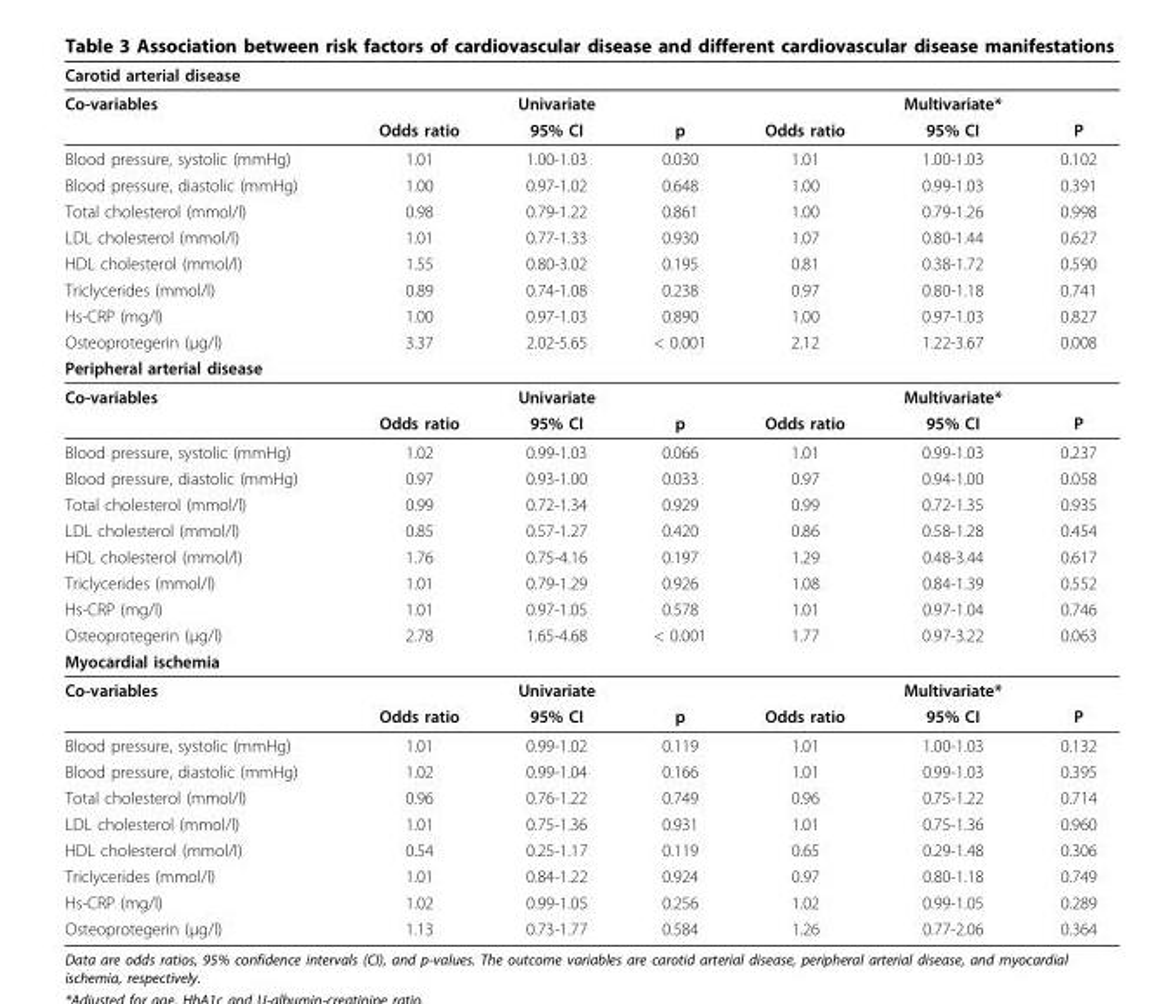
<table><thead><tr><td>Carotid arterial disease</td><td></td><td></td><td></td><td></td><td></td><td></td></tr></thead><tbody><tr><td rowspan="2">Co-variables</td><td></td><td>Univariate</td><td></td><td></td><td>Multivariate*</td><td></td></tr><tr><td>Odds ratio</td><td>95% CI</td><td>p</td><td>Odds ratio</td><td>95% CI</td><td>P</td></tr><tr><td>Blood pressure, systolic (mmHg)</td><td>1.01</td><td>1.00-1.03</td><td>0.030</td><td>1.01</td><td>1.00-1.03</td><td>0.102</td></tr><tr><td>Blood pressure, diastolic (mmHg)</td><td>1.00</td><td>0.97-1.02</td><td>0.648</td><td>1.00</td><td>0.99-1.03</td><td>0.391</td></tr><tr><td>Total cholesterol (mmol/l)</td><td>0.98</td><td>0.79-1.22</td><td>0.861</td><td>1.00</td><td>0.79-1.26</td><td>0.998</td></tr><tr><td>LDL cholesterol (mmol/l)</td><td>1.01</td><td>0.77-1.33</td><td>0.930</td><td>1.07</td><td>0.80-1.44</td><td>0.627</td></tr><tr><td>HDL cholesterol (mmol/l)</td><td>1.55</td><td>0.80-3.02</td><td>0.195</td><td>0.81</td><td>0.38-1.72</td><td>0.590</td></tr><tr><td>Triclycerides (mmol/l)</td><td>0.89</td><td>0.74-1.08</td><td>0.238</td><td>0.97</td><td>0.80-1.18</td><td>0.741</td></tr><tr><td>Hs-CRP (mg/l)</td><td>1.00</td><td>0.97-1.03</td><td>0.890</td><td>1.00</td><td>0.97-1.03</td><td>0.827</td></tr><tr><td>Osteoprotegerin (μg/l)</td><td>3.37</td><td>2.02-5.65</td><td>&lt; 0.001</td><td>2.12</td><td>1.22-3.67</td><td>0.008</td></tr><tr><td colspan="7">Peripheral arterial disease</td></tr><tr><td rowspan="2">Co-variables</td><td></td><td>Univariate</td><td></td><td></td><td>Multivariate*</td><td></td></tr><tr><td>Odds ratio</td><td>95% CI</td><td>p</td><td>Odds ratio</td><td>95% CI</td><td>P</td></tr><tr><td>Blood pressure, systolic (mmHg)</td><td>1.02</td><td>0.99-1.03</td><td>0.066</td><td>1.01</td><td>0.99-1.03</td><td>0.237</td></tr><tr><td>Blood pressure, diastolic (mmHg)</td><td>0.97</td><td>0.93-1.00</td><td>0.033</td><td>0.97</td><td>0.94-1.00</td><td>0.058</td></tr><tr><td>Total cholesterol (mmol/l)</td><td>0.99</td><td>0.72-1.34</td><td>0.929</td><td>0.99</td><td>0.72-1.35</td><td>0.935</td></tr><tr><td>LDL cholesterol (mmol/l)</td><td>0.85</td><td>0.57-1.27</td><td>0.420</td><td>0.86</td><td>0.58-1.28</td><td>0.454</td></tr><tr><td>HDL cholesterol (mmol/l)</td><td>1.76</td><td>0.75-4.16</td><td>0.197</td><td>1.29</td><td>0.48-3.44</td><td>0.617</td></tr><tr><td>Triclycerides (mmol/l)</td><td>1.01</td><td>0.79-1.29</td><td>0.926</td><td>1.08</td><td>0.84-1.39</td><td>0.552</td></tr><tr><td>Hs-CRP (mg/l)</td><td>1.01</td><td>0.97-1.05</td><td>0.578</td><td>1.01</td><td>0.97-1.04</td><td>0.746</td></tr><tr><td>Osteoprotegerin (μg/l)</td><td>2.78</td><td>1.65-4.68</td><td>&lt; 0.001</td><td>1.77</td><td>0.97-3.22</td><td>0.063</td></tr><tr><td colspan="7">Myocardial ischemia</td></tr><tr><td rowspan="2">Co-variables</td><td></td><td>Univariate</td><td></td><td></td><td>Multivariate*</td><td></td></tr><tr><td>Odds ratio</td><td>95% CI</td><td>p</td><td>Odds ratio</td><td>95% CI</td><td>P</td></tr><tr><td>Blood pressure, systolic (mmHg)</td><td>1.01</td><td>0.99-1.02</td><td>0.119</td><td>1.01</td><td>1.00-1.03</td><td>0.132</td></tr><tr><td>Blood pressure, diastolic (mmHg)</td><td>1.02</td><td>0.99-1.04</td><td>0.166</td><td>1.01</td><td>0.99-1.03</td><td>0.395</td></tr><tr><td>Total cholesterol (mmol/l)</td><td>0.96</td><td>0.76-1.22</td><td>0.749</td><td>0.96</td><td>0.75-1.22</td><td>0.714</td></tr><tr><td>LDL cholesterol (mmol/l)</td><td>1.01</td><td>0.75-1.36</td><td>0.931</td><td>1.01</td><td>0.75-1.36</td><td>0.960</td></tr><tr><td>HDL cholesterol (mmol/l)</td><td>0.54</td><td>0.25-1.17</td><td>0.119</td><td>0.65</td><td>0.29-1.48</td><td>0.306</td></tr><tr><td>Triclycerides (mmol/l)</td><td>1.01</td><td>0.84-1.22</td><td>0.924</td><td>0.97</td><td>0.80-1.18</td><td>0.749</td></tr><tr><td>Hs-CRP (mg/l)</td><td>1.02</td><td>0.99-1.05</td><td>0.256</td><td>1.02</td><td>0.99-1.05</td><td>0.289</td></tr><tr><td>Osteoprotegerin (μg/l)</td><td>1.13</td><td>0.73-1.77</td><td>0.584</td><td>1.26</td><td>0.77-2.06</td><td>0.364</td></tr></tbody></table>